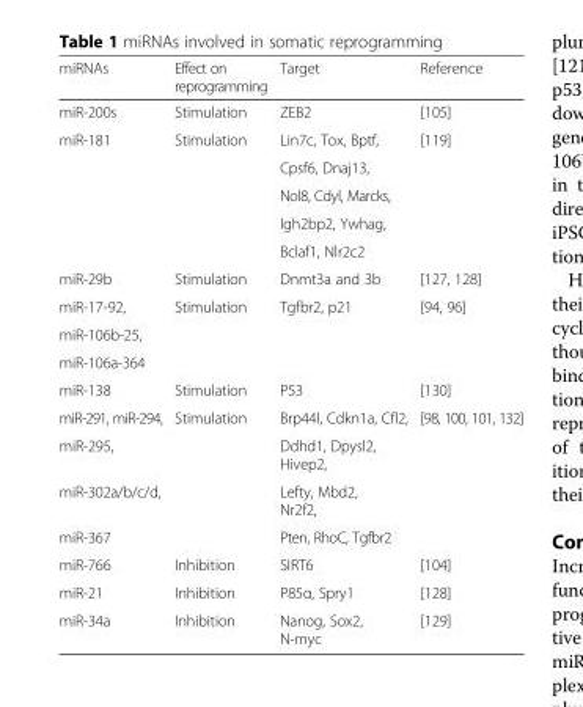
<table><thead><tr><td>miRNAs</td><td>Effect on reprogramming</td><td>Target</td><td>Reference</td></tr></thead><tbody><tr><td>miR-200s</td><td>Stimulation</td><td>ZEB2</td><td>[105]</td></tr><tr><td rowspan="5">miR-181</td><td rowspan="5">Stimulation</td><td>Lin7c, Tox, Bptf,</td><td rowspan="5">[119]</td></tr><tr><td>Cpsf6, Dnaj13,</td></tr><tr><td>Nol8, Cdyl, Marcks,</td></tr><tr><td>Igh2bp2, Ywhag,</td></tr><tr><td>Bclaf1, Nlr2c2</td></tr><tr><td>miR-29b</td><td>Stimulation</td><td>Dnmt3a and 3b</td><td>[127, 128]</td></tr><tr><td>miR-17-92,</td><td rowspan="3">Stimulation</td><td rowspan="3">Tgfbr2, p21</td><td rowspan="3">[94, 96]</td></tr><tr><td>miR-106b-25,</td></tr><tr><td>miR-106a-364</td></tr><tr><td>miR-138</td><td>Stimulation</td><td>P53</td><td>[130]</td></tr><tr><td>miR-291, miR-294,</td><td rowspan="4">Stimulation</td><td>Brp44l, Cdkn1a, Cfl2,</td><td rowspan="4">[98, 100, 101, 132]</td></tr><tr><td>miR-295,</td><td>Ddhd1, Dpysl2, Hivep2,</td></tr><tr><td>miR-302a/b/c/d,</td><td>Lefty, Mbd2, Nr2f2,</td></tr><tr><td>miR-367</td><td>Pten, RhoC, Tgfbr2</td></tr><tr><td>miR-766</td><td>Inhibition</td><td>SIRT6</td><td>[104]</td></tr><tr><td>miR-21</td><td>Inhibition</td><td>P85α, Spry1</td><td>[128]</td></tr><tr><td>miR-34a</td><td>Inhibition</td><td>Nanog, Sox2, N-myc</td><td>[129]</td></tr></tbody></table>